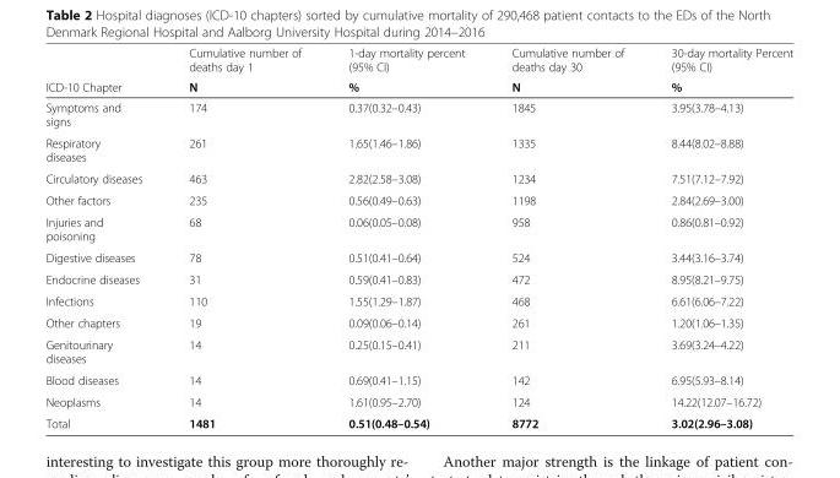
<table><thead><tr><td rowspan="2">ICD-10 Chapter</td><td rowspan="2">Cumulative number of deaths day 1 N</td><td rowspan="2">1-day mortality percent (95% CI) %</td><td rowspan="2">Cumulative number of deaths day 30 N</td><td rowspan="2">30-day mortality Percent (95% CI) %</td></tr><tr></tr></thead><tbody><tr><td>Symptoms and signs</td><td>174</td><td>0.37(0.32–0.43)</td><td>1845</td><td>3.95(3.78–4.13)</td></tr><tr><td>Respiratory diseases</td><td>261</td><td>1.65(1.46–1.86)</td><td>1335</td><td>8.44(8.02–8.88)</td></tr><tr><td>Circulatory diseases</td><td>463</td><td>2.82(2.58–3.08)</td><td>1234</td><td>7.51(7.12–7.92)</td></tr><tr><td>Other factors</td><td>235</td><td>0.56(0.49–0.63)</td><td>1198</td><td>2.84(2.69–3.00)</td></tr><tr><td>Injuries and poisoning</td><td>68</td><td>0.06(0.05–0.08)</td><td>958</td><td>0.86(0.81–0.92)</td></tr><tr><td>Digestive diseases</td><td>78</td><td>0.51(0.41–0.64)</td><td>524</td><td>3.44(3.16–3.74)</td></tr><tr><td>Endocrine diseases</td><td>31</td><td>0.59(0.41–0.83)</td><td>472</td><td>8.95(8.21–9.75)</td></tr><tr><td>Infections</td><td>110</td><td>1.55(1.29–1.87)</td><td>468</td><td>6.61(6.06–7.22)</td></tr><tr><td>Other chapters</td><td>19</td><td>0.09(0.06–0.14)</td><td>261</td><td>1.20(1.06–1.35)</td></tr><tr><td>Genitourinary diseases</td><td>14</td><td>0.25(0.15–0.41)</td><td>211</td><td>3.69(3.24–4.22)</td></tr><tr><td>Blood diseases</td><td>14</td><td>0.69(0.41–1.15)</td><td>142</td><td>6.95(5.93–8.14)</td></tr><tr><td>Neoplasms</td><td>14</td><td>1.61(0.95–2.70)</td><td>124</td><td>14.22(12.07–16.72)</td></tr><tr><td>Total</td><td>1481</td><td>0.51(0.48–0.54)</td><td>8772</td><td>3.02(2.96–3.08)</td></tr></tbody></table>